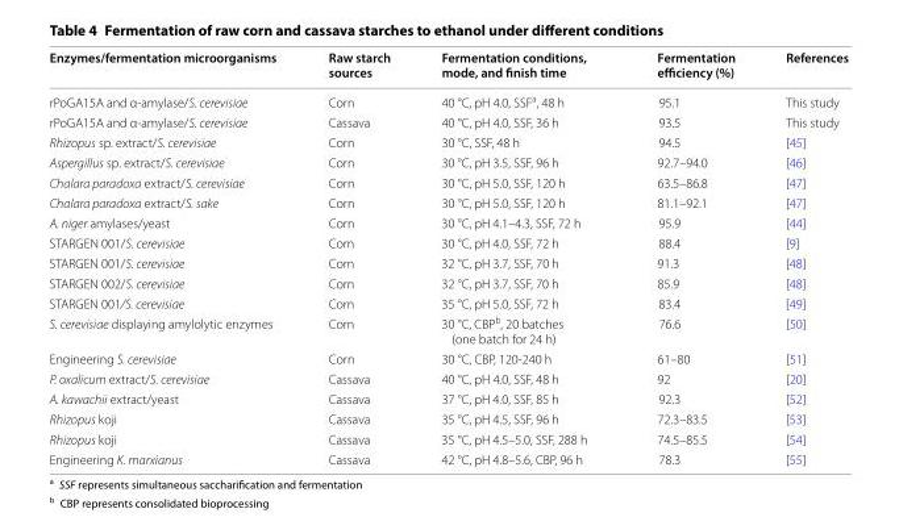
<table><thead><tr><td>Enzymes/fermentation microorganisms</td><td>Raw starch sources</td><td>Fermentation conditions, mode, and finish time</td><td>Fermentation efficiency (%)</td><td>References</td></tr></thead><tbody><tr><td>rPoGA15A and α‑amylase/S. cerevisiae</td><td>Corn</td><td>40 °C, pH 4.0, SSF<sup>a</sup>, 48 h</td><td>95.1</td><td>This study</td></tr><tr><td>rPoGA15A and α‑amylase/S. cerevisiae</td><td>Cassava</td><td>40 °C, pH 4.0, SSF, 36 h</td><td>93.5</td><td>This study</td></tr><tr><td>Rhizopus sp. extract/S. cerevisiae</td><td>Corn</td><td>30 °C, SSF, 48 h</td><td>94.5</td><td>[45]</td></tr><tr><td>Aspergillus sp. extract/S. cerevisiae</td><td>Corn</td><td>30 °C, pH 3.5, SSF, 96 h</td><td>92.7–94.0</td><td>[46]</td></tr><tr><td>Chalara paradoxa extract/S. cerevisiae</td><td>Corn</td><td>30 °C, pH 5.0, SSF, 120 h</td><td>63.5–86.8</td><td>[47]</td></tr><tr><td>Chalara paradoxa extract/S. sake</td><td>Corn</td><td>30 °C, pH 5.0, SSF, 120 h</td><td>81.1–92.1</td><td>[47]</td></tr><tr><td>A. niger amylases/yeast</td><td>Corn</td><td>30 °C, pH 4.1–4.3, SSF, 72 h</td><td>95.9</td><td>[44]</td></tr><tr><td>STARGEN 001/S. cerevisiae</td><td>Corn</td><td>30 °C, pH 4.0, SSF, 72 h</td><td>88.4</td><td>[9]</td></tr><tr><td>STARGEN 001/S. cerevisiae</td><td>Corn</td><td>32 °C, pH 3.7, SSF, 70 h</td><td>91.3</td><td>[48]</td></tr><tr><td>STARGEN 002/S. cerevisiae</td><td>Corn</td><td>32 °C, pH 3.7, SSF, 70 h</td><td>85.9</td><td>[48]</td></tr><tr><td>STARGEN 001/S. cerevisiae</td><td>Corn</td><td>35 °C, pH 5.0, SSF, 72 h</td><td>83.4</td><td>[49]</td></tr><tr><td>S. cerevisiae displaying amylolytic enzymes</td><td>Corn</td><td>30 °C, CBP<sup>b</sup>, 20 batches (one batch for 24 h)</td><td>76.6</td><td>[50]</td></tr><tr><td>Engineering S. cerevisiae</td><td>Corn</td><td>30 °C, CBP, 120‑240 h</td><td>61–80</td><td>[51]</td></tr><tr><td>P. oxalicum extract/S. cerevisiae</td><td>Cassava</td><td>40 °C, pH 4.0, SSF, 48 h</td><td>92</td><td>[20]</td></tr><tr><td>A. kawachii extract/yeast</td><td>Cassava</td><td>37 °C, pH 4.0, SSF, 85 h</td><td>92.3</td><td>[52]</td></tr><tr><td>Rhizopus koji</td><td>Cassava</td><td>35 °C, pH 4.5, SSF, 96 h</td><td>72.3–83.5</td><td>[53]</td></tr><tr><td>Rhizopus koji</td><td>Cassava</td><td>35 °C, pH 4.5–5.0, SSF, 288 h</td><td>74.5–85.5</td><td>[54]</td></tr><tr><td>Engineering K. marxianus</td><td>Cassava</td><td>42 °C, pH 4.8–5.6, CBP, 96 h</td><td>78.3</td><td>[55]</td></tr></tbody></table>